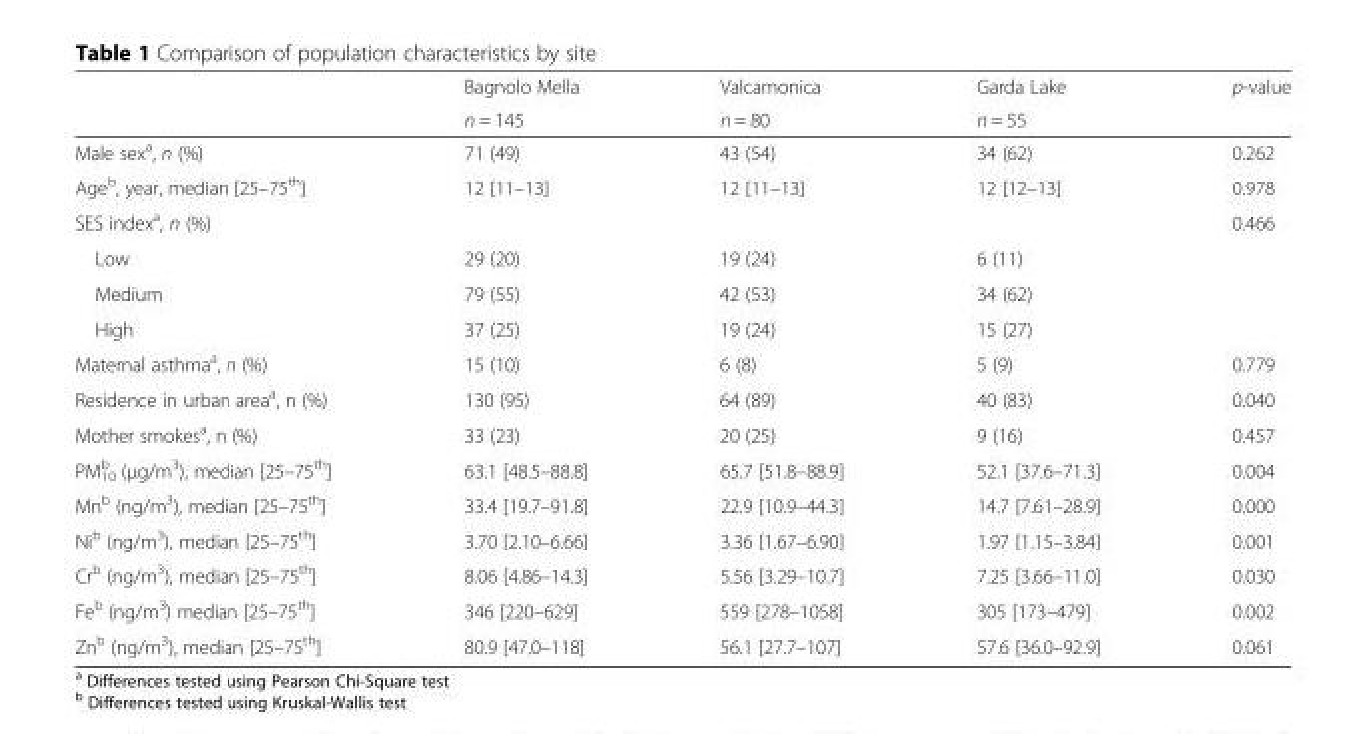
<table><thead><tr><td rowspan="2"></td><td rowspan="2">Bagnolo Mella n = 145</td><td rowspan="2">Valcamonica n = 80</td><td rowspan="2">Garda Lake n = 55</td><td rowspan="2">p-value</td></tr><tr></tr></thead><tbody><tr><td>Male sex<sup>a</sup>, n (%)</td><td>71 (49)</td><td>43 (54)</td><td>34 (62)</td><td>0.262</td></tr><tr><td>Age<sup>b</sup>, year, median [25–75<sup>th</sup>]</td><td>12 [11–13]</td><td>12 [11–13]</td><td>12 [12–13]</td><td>0.978</td></tr><tr><td colspan="4">SES index<sup>a</sup>, n (%)</td><td rowspan="4">0.466</td></tr><tr><td>Low</td><td>29 (20)</td><td>19 (24)</td><td>6 (11)</td></tr><tr><td>Medium</td><td>79 (55)</td><td>42 (53)</td><td>34 (62)</td></tr><tr><td>High</td><td>37 (25)</td><td>19 (24)</td><td>15 (27)</td></tr><tr><td>Maternal asthma<sup>a</sup>, n (%)</td><td>15 (10)</td><td>6 (8)</td><td>5 (9)</td><td>0.779</td></tr><tr><td>Residence in urban area<sup>a</sup>, n (%)</td><td>130 (95)</td><td>64 (89)</td><td>40 (83)</td><td>0.040</td></tr><tr><td>Mother smokes<sup>a</sup>, n (%)</td><td>33 (23)</td><td>20 (25)</td><td>9 (16)</td><td>0.457</td></tr><tr><td>PM<sub>10</sub> <sup>b</sup> (μg/m<sup>3</sup>), median [25–75<sup>th</sup>]</td><td>63.1 [48.5–88.8]</td><td>65.7 [51.8–88.9]</td><td>52.1 [37.6–71.3]</td><td>0.004</td></tr><tr><td>Mn<sup>b</sup> (ng/m<sup>3</sup>), median [25–75<sup>th</sup>]</td><td>33.4 [19.7–91.8]</td><td>22.9 [10.9–44.3]</td><td>14.7 [7.61–28.9]</td><td>0.000</td></tr><tr><td>Ni<sup>b</sup> (ng/m<sup>3</sup>), median [25–75<sup>th</sup>]</td><td>3.70 [2.10–6.66]</td><td>3.36 [1.67–6.90]</td><td>1.97 [1.15–3.84]</td><td>0.001</td></tr><tr><td>Cr<sup>b</sup> (ng/m<sup>3</sup>), median [25–75<sup>th</sup>]</td><td>8.06 [4.86–14.3]</td><td>5.56 [3.29–10.7]</td><td>7.25 [3.66–11.0]</td><td>0.030</td></tr><tr><td>Fe<sup>b</sup> (ng/m<sup>3</sup>) median [25–75<sup>th</sup>]</td><td>346 [220–629]</td><td>559 [278–1058]</td><td>305 [173–479]</td><td>0.002</td></tr><tr><td>Zn<sup>b</sup> (ng/m<sup>3</sup>), median [25–75<sup>th</sup>]</td><td>80.9 [47.0–118]</td><td>56.1 [27.7–107]</td><td>57.6 [36.0–92.9]</td><td>0.061</td></tr></tbody></table>